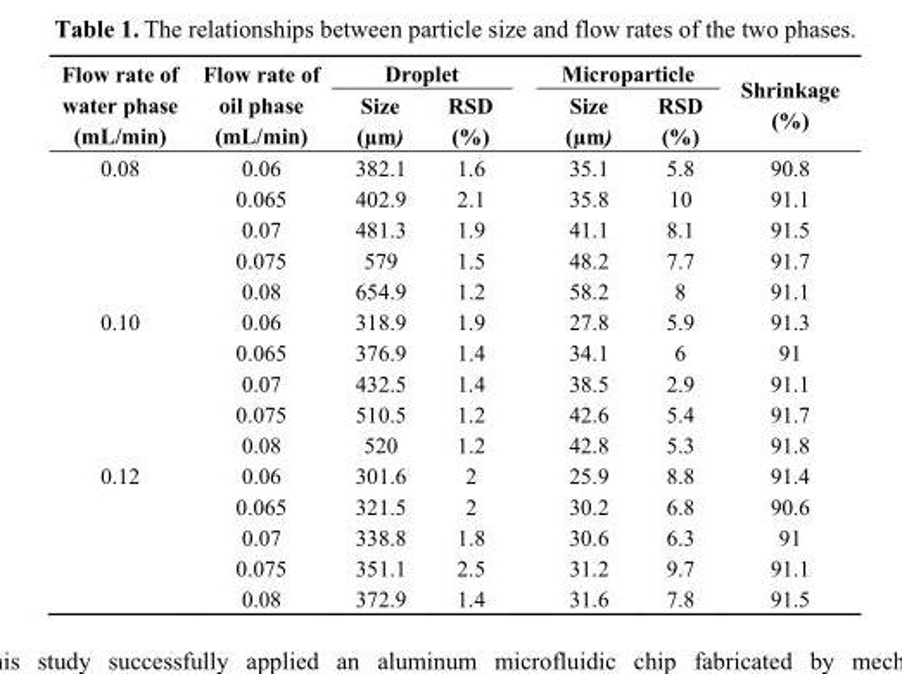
<table><thead><tr><td rowspan="2">Flow rate of water phase (mL/min)</td><td rowspan="2">Flow rate of oil phase (mL/min)</td><td colspan="2">Droplet</td><td colspan="2">Microparticle</td><td rowspan="2">Shrinkage (%)</td></tr><tr><td>Size (µm)</td><td>RSD (%)</td><td>Size (µm)</td><td>RSD (%)</td></tr></thead><tbody><tr><td rowspan="5">0.08</td><td>0.06</td><td>382.1</td><td>1.6</td><td>35.1</td><td>5.8</td><td>90.8</td></tr><tr><td>0.065</td><td>402.9</td><td>2.1</td><td>35.8</td><td>10</td><td>91.1</td></tr><tr><td>0.07</td><td>481.3</td><td>1.9</td><td>41.1</td><td>8.1</td><td>91.5</td></tr><tr><td>0.075</td><td>579</td><td>1.5</td><td>48.2</td><td>7.7</td><td>91.7</td></tr><tr><td>0.08</td><td>654.9</td><td>1.2</td><td>58.2</td><td>8</td><td>91.1</td></tr><tr><td rowspan="5">0.10</td><td>0.06</td><td>318.9</td><td>1.9</td><td>27.8</td><td>5.9</td><td>91.3</td></tr><tr><td>0.065</td><td>376.9</td><td>1.4</td><td>34.1</td><td>6</td><td>91</td></tr><tr><td>0.07</td><td>432.5</td><td>1.4</td><td>38.5</td><td>2.9</td><td>91.1</td></tr><tr><td>0.075</td><td>510.5</td><td>1.2</td><td>42.6</td><td>5.4</td><td>91.7</td></tr><tr><td>0.08</td><td>520</td><td>1.2</td><td>42.8</td><td>5.3</td><td>91.8</td></tr><tr><td rowspan="5">0.12</td><td>0.06</td><td>301.6</td><td>2</td><td>25.9</td><td>8.8</td><td>91.4</td></tr><tr><td>0.065</td><td>321.5</td><td>2</td><td>30.2</td><td>6.8</td><td>90.6</td></tr><tr><td>0.07</td><td>338.8</td><td>1.8</td><td>30.6</td><td>6.3</td><td>91</td></tr><tr><td>0.075</td><td>351.1</td><td>2.5</td><td>31.2</td><td>9.7</td><td>91.1</td></tr><tr><td>0.08</td><td>372.9</td><td>1.4</td><td>31.6</td><td>7.8</td><td>91.5</td></tr></tbody></table>